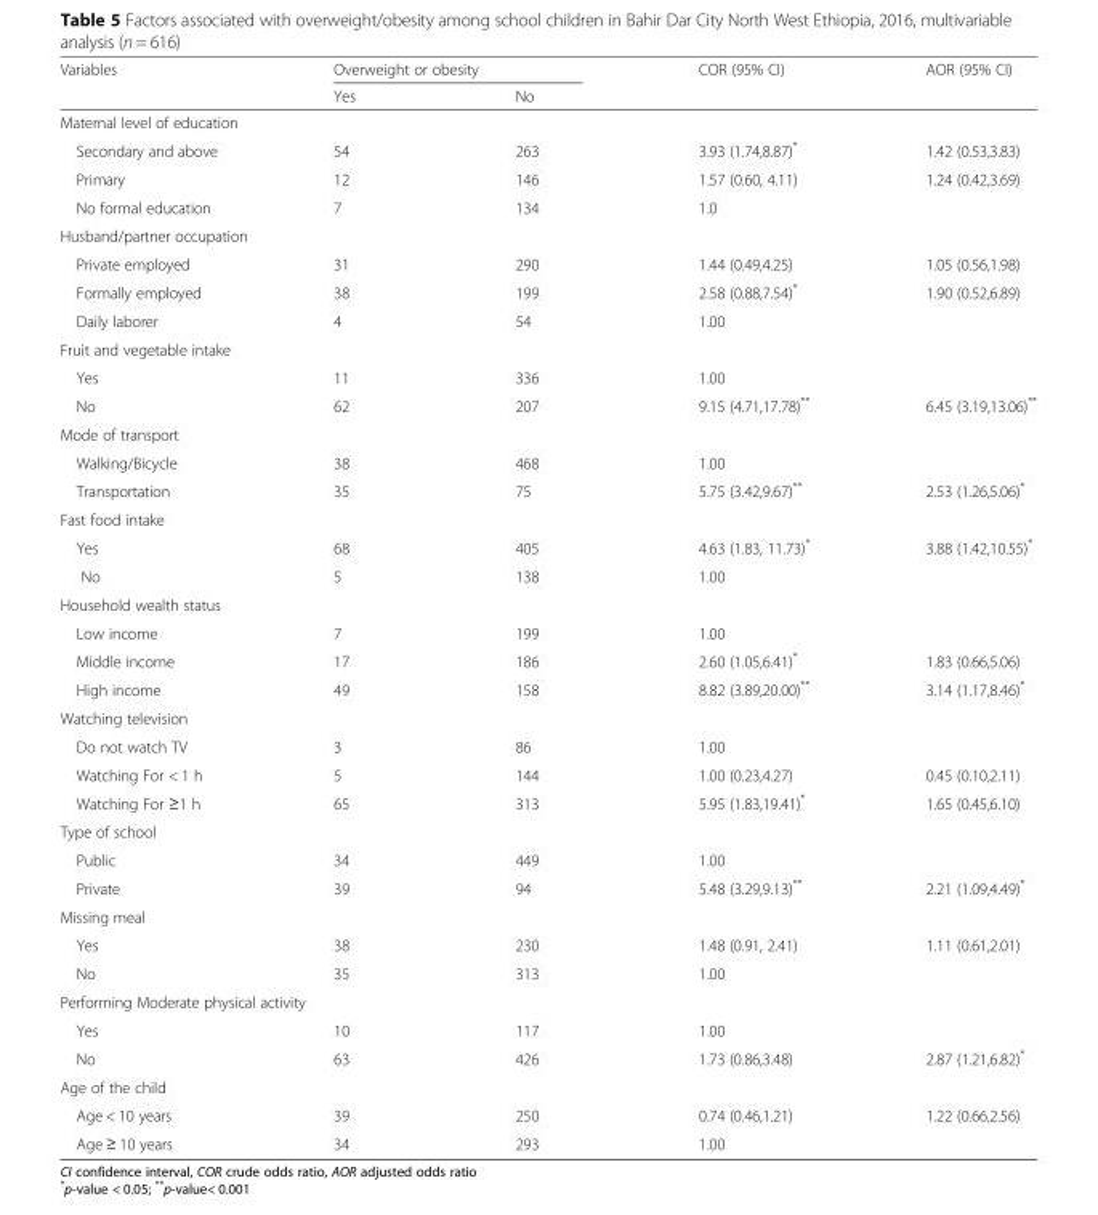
<table><thead><tr><td rowspan="2">Variables</td><td colspan="2">Overweight or obesity</td><td rowspan="2">COR (95% CI)</td><td rowspan="2">AOR (95% CI)</td></tr><tr><td>Yes</td><td>No</td></tr></thead><tbody><tr><td colspan="5">Maternal level of education</td></tr><tr><td>Secondary and above</td><td>54</td><td>263</td><td>3.93 (1.74,8.87)*</td><td>1.42 (0.53,3.83)</td></tr><tr><td>Primary</td><td>12</td><td>146</td><td>1.57 (0.60, 4.11)</td><td>1.24 (0.42,3.69)</td></tr><tr><td>No formal education</td><td>7</td><td>134</td><td>1.0</td><td></td></tr><tr><td colspan="5">Husband/partner occupation</td></tr><tr><td>Private employed</td><td>31</td><td>290</td><td>1.44 (0.49,4.25)</td><td>1.05 (0.56,1.98)</td></tr><tr><td>Formally employed</td><td>38</td><td>199</td><td>2.58 (0.88,7.54)*</td><td>1.90 (0.52,6.89)</td></tr><tr><td>Daily laborer</td><td>4</td><td>54</td><td>1.00</td><td></td></tr><tr><td colspan="5">Fruit and vegetable intake</td></tr><tr><td>Yes</td><td>11</td><td>336</td><td>1.00</td><td></td></tr><tr><td>No</td><td>62</td><td>207</td><td>9.15 (4.71,17.78)**</td><td>6.45 (3.19,13.06)**</td></tr><tr><td colspan="5">Mode of transport</td></tr><tr><td>Walking/Bicycle</td><td>38</td><td>468</td><td>1.00</td><td></td></tr><tr><td>Transportation</td><td>35</td><td>75</td><td>5.75 (3.42,9.67)**</td><td>2.53 (1.26,5.06)*</td></tr><tr><td colspan="5">Fast food intake</td></tr><tr><td>Yes</td><td>68</td><td>405</td><td>4.63 (1.83, 11.73)*</td><td>3.88 (1.42,10.55)*</td></tr><tr><td>No</td><td>5</td><td>138</td><td>1.00</td><td></td></tr><tr><td colspan="5">Household wealth status</td></tr><tr><td>Low income</td><td>7</td><td>199</td><td>1.00</td><td></td></tr><tr><td>Middle income</td><td>17</td><td>186</td><td>2.60 (1.05,6.41)*</td><td>1.83 (0.66,5.06)</td></tr><tr><td>High income</td><td>49</td><td>158</td><td>8.82 (3.89,20.00)**</td><td>3.14 (1.17,8.46)*</td></tr><tr><td colspan="5">Watching television</td></tr><tr><td>Do not watch TV</td><td>3</td><td>86</td><td>1.00</td><td></td></tr><tr><td>Watching For &lt; 1 h</td><td>5</td><td>144</td><td>1.00 (0.23,4.27)</td><td>0.45 (0.10,2.11)</td></tr><tr><td>Watching For ≥1 h</td><td>65</td><td>313</td><td>5.95 (1.83,19.41)*</td><td>1.65 (0.45,6.10)</td></tr><tr><td colspan="5">Type of school</td></tr><tr><td>Public</td><td>34</td><td>449</td><td>1.00</td><td></td></tr><tr><td>Private</td><td>39</td><td>94</td><td>5.48 (3.29,9.13)**</td><td>2.21 (1.09,4.49)*</td></tr><tr><td colspan="5">Missing meal</td></tr><tr><td>Yes</td><td>38</td><td>230</td><td>1.48 (0.91, 2.41)</td><td>1.11 (0.61,2.01)</td></tr><tr><td>No</td><td>35</td><td>313</td><td>1.00</td><td></td></tr><tr><td colspan="5">Performing Moderate physical activity</td></tr><tr><td>Yes</td><td>10</td><td>117</td><td>1.00</td><td></td></tr><tr><td>No</td><td>63</td><td>426</td><td>1.73 (0.86,3.48)</td><td>2.87 (1.21,6.82)*</td></tr><tr><td colspan="5">Age of the child</td></tr><tr><td>Age &lt; 10 years</td><td>39</td><td>250</td><td>0.74 (0.46,1.21)</td><td>1.22 (0.66,2.56)</td></tr><tr><td>Age ≥ 10 years</td><td>34</td><td>293</td><td>1.00</td><td></td></tr></tbody></table>